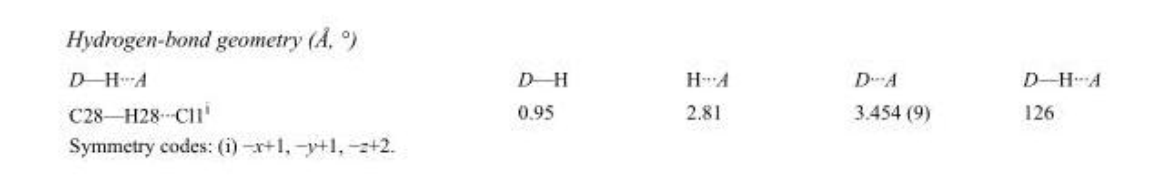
<table><tbody><tr><td>D—H···A</td><td>D—H</td><td>H···A</td><td>D···A</td><td>D—H···A</td></tr><tr><td>C28—H28···Cl1<sup>i</sup></td><td>0.95</td><td>2.81</td><td>3.454 (9)</td><td>126</td></tr></tbody></table>